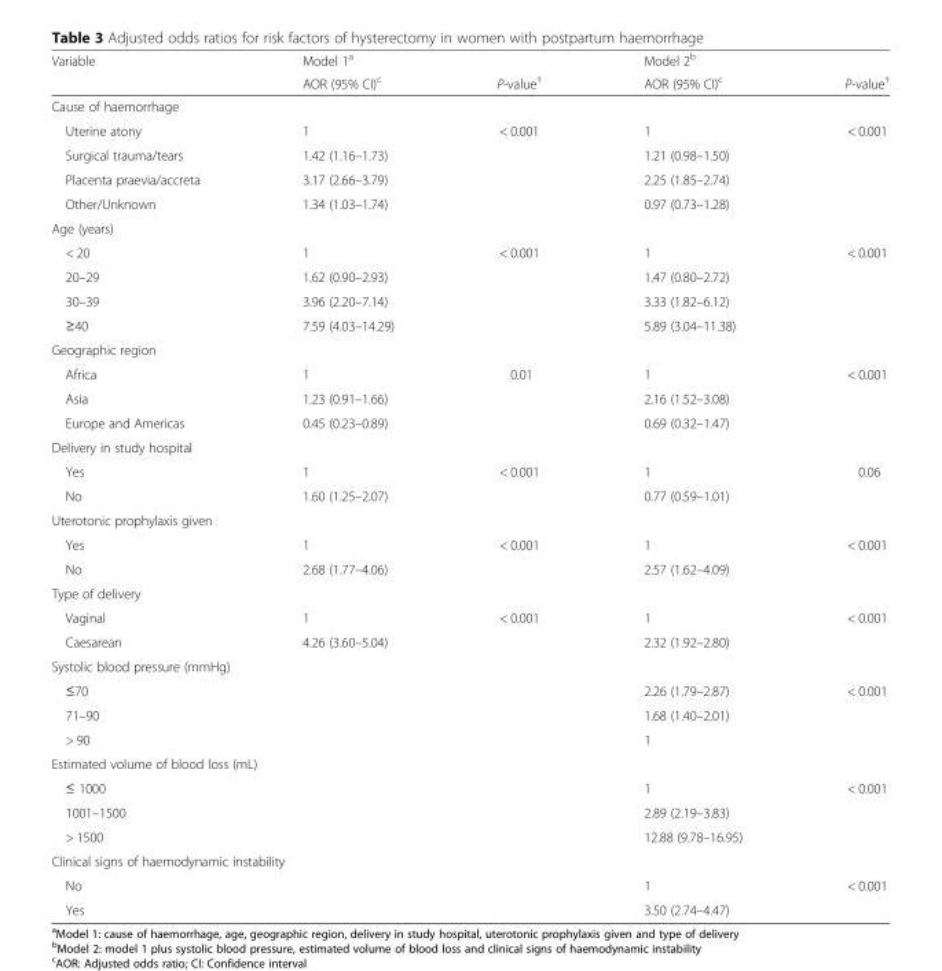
<table><thead><tr><td rowspan="2">Variable</td><td rowspan="2">Model 1<sup>a</sup> AOR (95% CI)<sup>c</sup></td><td rowspan="2">P-value<sup>†</sup></td><td rowspan="2">Model 2<sup>b</sup> AOR (95% CI)<sup>c</sup></td><td rowspan="2">P-value<sup>†</sup></td></tr><tr></tr></thead><tbody><tr><td colspan="5">Cause of haemorrhage</td></tr><tr><td>Uterine atony</td><td>1</td><td>&lt; 0.001</td><td>1</td><td>&lt; 0.001</td></tr><tr><td>Surgical trauma/tears</td><td>1.42 (1.16–1.73)</td><td></td><td>1.21 (0.98–1.50)</td><td></td></tr><tr><td>Placenta praevia/accreta</td><td>3.17 (2.66–3.79)</td><td></td><td>2.25 (1.85–2.74)</td><td></td></tr><tr><td>Other/Unknown</td><td>1.34 (1.03–1.74)</td><td></td><td>0.97 (0.73–1.28)</td><td></td></tr><tr><td colspan="5">Age (years)</td></tr><tr><td>&lt; 20</td><td>1</td><td>&lt; 0.001</td><td>1</td><td>&lt; 0.001</td></tr><tr><td>20–29</td><td>1.62 (0.90–2.93)</td><td></td><td>1.47 (0.80–2.72)</td><td></td></tr><tr><td>30–39</td><td>3.96 (2.20–7.14)</td><td></td><td>3.33 (1.82–6.12)</td><td></td></tr><tr><td>≥40</td><td>7.59 (4.03–14.29)</td><td></td><td>5.89 (3.04–11.38)</td><td></td></tr><tr><td colspan="5">Geographic region</td></tr><tr><td>Africa</td><td>1</td><td>0.01</td><td>1</td><td>&lt; 0.001</td></tr><tr><td>Asia</td><td>1.23 (0.91–1.66)</td><td></td><td>2.16 (1.52–3.08)</td><td></td></tr><tr><td>Europe and Americas</td><td>0.45 (0.23–0.89)</td><td></td><td>0.69 (0.32–1.47)</td><td></td></tr><tr><td colspan="5">Delivery in study hospital</td></tr><tr><td>Yes</td><td>1</td><td>&lt; 0.001</td><td>1</td><td>0.06</td></tr><tr><td>No</td><td>1.60 (1.25–2.07)</td><td></td><td>0.77 (0.59–1.01)</td><td></td></tr><tr><td colspan="5">Uterotonic prophylaxis given</td></tr><tr><td>Yes</td><td>1</td><td>&lt; 0.001</td><td>1</td><td>&lt; 0.001</td></tr><tr><td>No</td><td>2.68 (1.77–4.06)</td><td></td><td>2.57 (1.62–4.09)</td><td></td></tr><tr><td colspan="5">Type of delivery</td></tr><tr><td>Vaginal</td><td>1</td><td>&lt; 0.001</td><td>1</td><td>&lt; 0.001</td></tr><tr><td>Caesarean</td><td>4.26 (3.60–5.04)</td><td></td><td>2.32 (1.92–2.80)</td><td></td></tr><tr><td colspan="5">Systolic blood pressure (mmHg)</td></tr><tr><td>≤70</td><td></td><td></td><td>2.26 (1.79–2.87)</td><td>&lt; 0.001</td></tr><tr><td>71–90</td><td></td><td></td><td>1.68 (1.40–2.01)</td><td></td></tr><tr><td>&gt; 90</td><td></td><td></td><td>1</td><td></td></tr><tr><td colspan="5">Estimated volume of blood loss (mL)</td></tr><tr><td>≤ 1000</td><td></td><td></td><td>1</td><td>&lt; 0.001</td></tr><tr><td>1001–1500</td><td></td><td></td><td>2.89 (2.19–3.83)</td><td></td></tr><tr><td>&gt; 1500</td><td></td><td></td><td>12.88 (9.78–16.95)</td><td></td></tr><tr><td colspan="5">Clinical signs of haemodynamic instability</td></tr><tr><td>No</td><td></td><td></td><td>1</td><td>&lt; 0.001</td></tr><tr><td>Yes</td><td></td><td></td><td>3.50 (2.74–4.47)</td><td></td></tr></tbody></table>